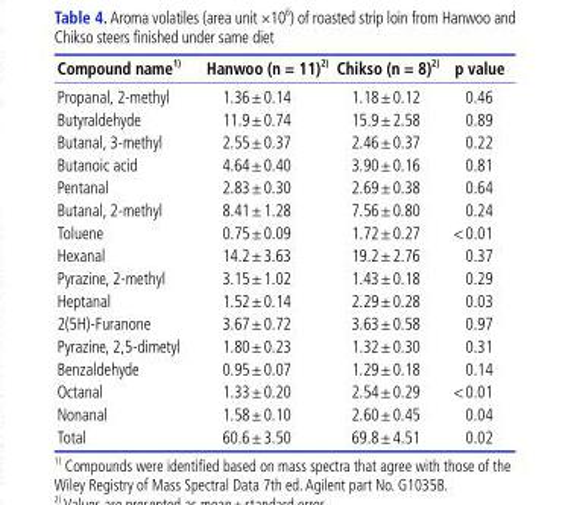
<table><thead><tr><td>Compound name 1)</td><td>Hanwoo (n = 11) 2)</td><td>Chikso (n = 8) 2)</td><td>p value</td></tr></thead><tbody><tr><td>Propanal, 2-methyl</td><td>1.36±0.14</td><td>1.18±0.12</td><td>0.46</td></tr><tr><td>Butyraldehyde</td><td>11.9±0.74</td><td>15.9±2.58</td><td>0.89</td></tr><tr><td>Butanal, 3-methyl</td><td>2.55±0.37</td><td>2.46±0.37</td><td>0.22</td></tr><tr><td>Butanoic acid</td><td>4.64±0.40</td><td>3.90±0.16</td><td>0.81</td></tr><tr><td>Pentanal</td><td>2.83±0.30</td><td>2.69±0.38</td><td>0.64</td></tr><tr><td>Butanal, 2-methyl</td><td>8.41±1.28</td><td>7.56±0.80</td><td>0.24</td></tr><tr><td>Toluene</td><td>0.75±0.09</td><td>1.72±0.27</td><td>&lt;0.01</td></tr><tr><td>Hexanal</td><td>14.2±3.63</td><td>19.2±2.76</td><td>0.37</td></tr><tr><td>Pyrazine, 2-methyl</td><td>3.15±1.02</td><td>1.43±0.18</td><td>0.29</td></tr><tr><td>Heptanal</td><td>1.52±0.14</td><td>2.29±0.28</td><td>0.03</td></tr><tr><td>2(5H)-Furanone</td><td>3.67±0.72</td><td>3.63±0.58</td><td>0.97</td></tr><tr><td>Pyrazine, 2,5-dimetyl</td><td>1.80±0.23</td><td>1.32±0.30</td><td>0.31</td></tr><tr><td>Benzaldehyde</td><td>0.95±0.07</td><td>1.29±0.18</td><td>0.14</td></tr><tr><td>Octanal</td><td>1.33±0.20</td><td>2.54±0.29</td><td>&lt;0.01</td></tr><tr><td>Nonanal</td><td>1.58±0.10</td><td>2.60±0.45</td><td>0.04</td></tr><tr><td>Total</td><td>60.6±3.50</td><td>69.8±4.51</td><td>0.02</td></tr></tbody></table>